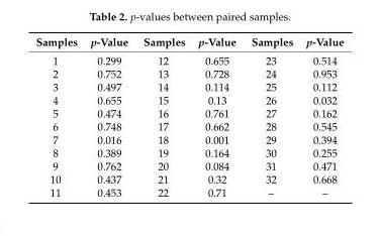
<table><thead><tr><td>Samples</td><td>p-Value</td><td>Samples</td><td>p-Value</td><td>Samples</td><td>p-Value</td></tr></thead><tbody><tr><td>1</td><td>0.299</td><td>12</td><td>0.655</td><td>23</td><td>0.514</td></tr><tr><td>2</td><td>0.752</td><td>13</td><td>0.728</td><td>24</td><td>0.953</td></tr><tr><td>3</td><td>0.497</td><td>14</td><td>0.114</td><td>25</td><td>0.112</td></tr><tr><td>4</td><td>0.655</td><td>15</td><td>0.13</td><td>26</td><td>0.032</td></tr><tr><td>5</td><td>0.474</td><td>16</td><td>0.761</td><td>27</td><td>0.162</td></tr><tr><td>6</td><td>0.748</td><td>17</td><td>0.662</td><td>28</td><td>0.545</td></tr><tr><td>7</td><td>0.016</td><td>18</td><td>0.001</td><td>29</td><td>0.394</td></tr><tr><td>8</td><td>0.389</td><td>19</td><td>0.164</td><td>30</td><td>0.255</td></tr><tr><td>9</td><td>0.762</td><td>20</td><td>0.084</td><td>31</td><td>0.471</td></tr><tr><td>10</td><td>0.437</td><td>21</td><td>0.32</td><td>32</td><td>0.668</td></tr><tr><td>11</td><td>0.453</td><td>22</td><td>0.71</td><td>–</td><td>–</td></tr></tbody></table>